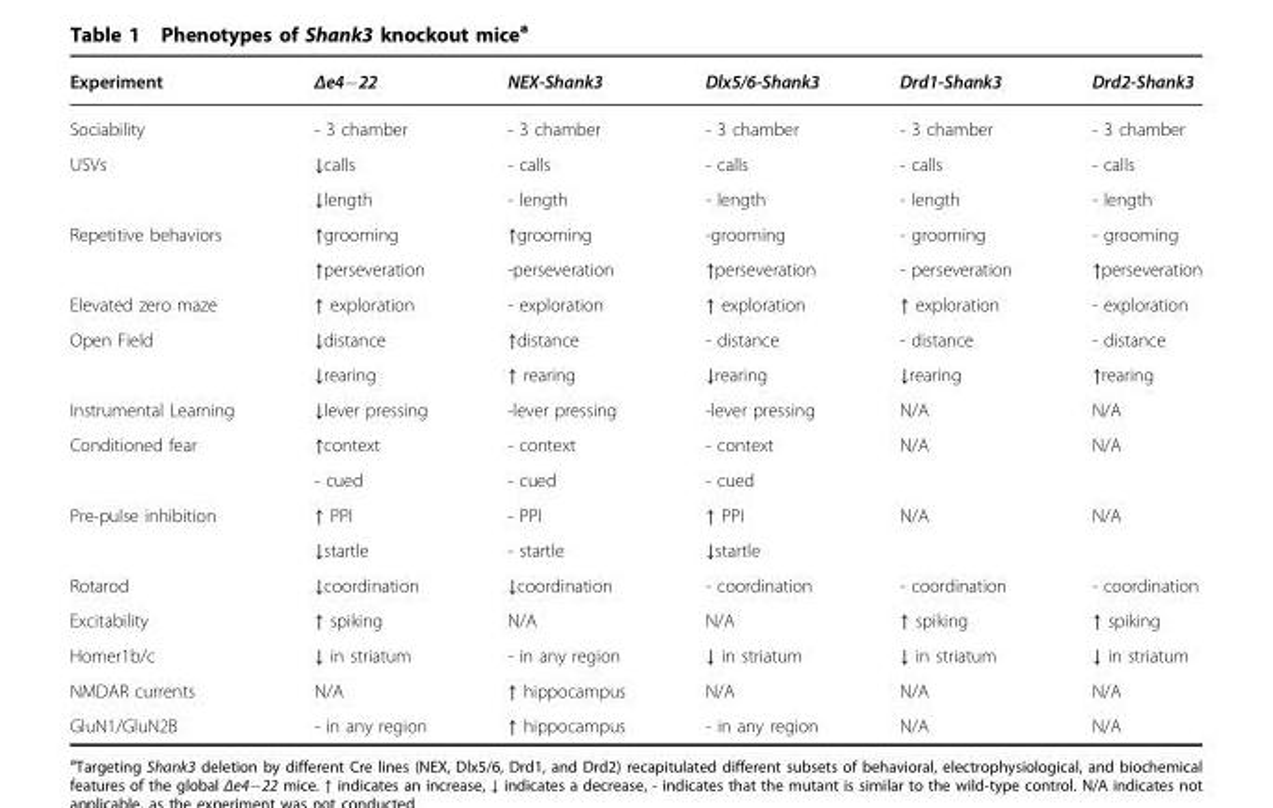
<table><thead><tr><td>Experiment</td><td>Δe4−22</td><td>NEX-Shank3</td><td>Dlx5/6-Shank3</td><td>Drd1-Shank3</td><td>Drd2-Shank3</td></tr></thead><tbody><tr><td>Sociability</td><td>- 3 chamber</td><td>- 3 chamber</td><td>- 3 chamber</td><td>- 3 chamber</td><td>- 3 chamber</td></tr><tr><td rowspan="2">USVs</td><td>↓calls</td><td>- calls</td><td>- calls</td><td>- calls</td><td>- calls</td></tr><tr><td>↓length</td><td>- length</td><td>- length</td><td>- length</td><td>- length</td></tr><tr><td rowspan="2">Repetitive behaviors</td><td>↑grooming</td><td>↑grooming</td><td>-grooming</td><td>- grooming</td><td>- grooming</td></tr><tr><td>↑perseveration</td><td>-perseveration</td><td>↑perseveration</td><td>- perseveration</td><td>↑perseveration</td></tr><tr><td>Elevated zero maze</td><td>↑ exploration</td><td>- exploration</td><td>↑ exploration</td><td>↑ exploration</td><td>- exploration</td></tr><tr><td rowspan="2">Open Field</td><td>↓distance</td><td>↑distance</td><td>- distance</td><td>- distance</td><td>- distance</td></tr><tr><td>↓rearing</td><td>↑ rearing</td><td>↓rearing</td><td>↓rearing</td><td>↑rearing</td></tr><tr><td>Instrumental Learning</td><td>↓lever pressing</td><td>-lever pressing</td><td>-lever pressing</td><td>N/A</td><td>N/A</td></tr><tr><td rowspan="2">Conditioned fear</td><td>↑context</td><td>- context</td><td>- context</td><td>N/A</td><td>N/A</td></tr><tr><td>- cued</td><td>- cued</td><td>- cued</td><td></td><td></td></tr><tr><td rowspan="2">Pre-pulse inhibition</td><td>↑ PPI</td><td>- PPI</td><td>↑ PPI</td><td>N/A</td><td>N/A</td></tr><tr><td>↓startle</td><td>- startle</td><td>↓startle</td><td></td><td></td></tr><tr><td>Rotarod</td><td>↓coordination</td><td>↓coordination</td><td>- coordination</td><td>- coordination</td><td>- coordination</td></tr><tr><td>Excitability</td><td>↑ spiking</td><td>N/A</td><td>N/A</td><td>↑ spiking</td><td>↑ spiking</td></tr><tr><td>Homer1b/c</td><td>↓ in striatum</td><td>- in any region</td><td>↓ in striatum</td><td>↓ in striatum</td><td>↓ in striatum</td></tr><tr><td>NMDAR currents</td><td>N/A</td><td>↑ hippocampus</td><td>N/A</td><td>N/A</td><td>N/A</td></tr><tr><td>GluN1/GluN2B</td><td>- in any region</td><td>↑ hippocampus</td><td>- in any region</td><td>N/A</td><td>N/A</td></tr></tbody></table>